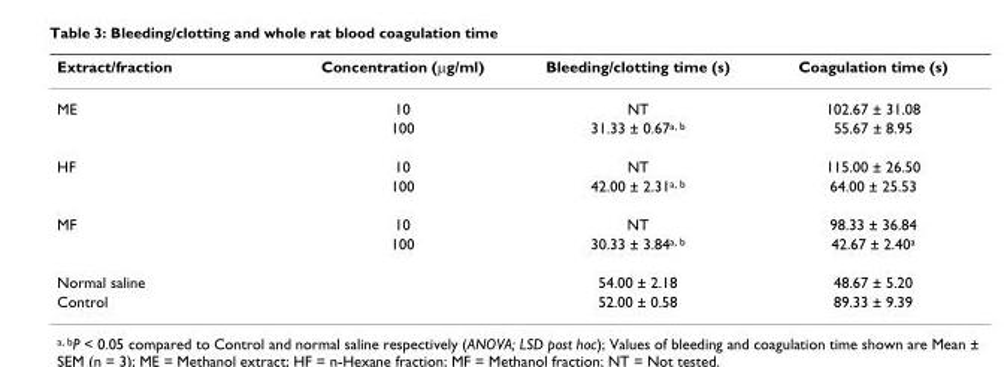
<table><thead><tr><td>Extract/fraction</td><td>Concentration (μg/ml)</td><td>Bleeding/clotting time (s)</td><td>Coagulation time (s)</td></tr></thead><tbody><tr><td rowspan="2">ME</td><td>10</td><td>NT</td><td>102.67 ± 31.08</td></tr><tr><td>100</td><td>31.33 ± 0.67<sup>a, b</sup></td><td>55.67 ± 8.95</td></tr><tr><td rowspan="2">HF</td><td>10</td><td>NT</td><td>115.00 ± 26.50</td></tr><tr><td>100</td><td>42.00 ± 2.31<sup>a, b</sup></td><td>64.00 ± 25.53</td></tr><tr><td rowspan="2">MF</td><td>10</td><td>NT</td><td>98.33 ± 36.84</td></tr><tr><td>100</td><td>30.33 ± 3.84<sup>a, b</sup></td><td>42.67 ± 2.40<sup>a</sup></td></tr><tr><td>Normal saline</td><td></td><td>54.00 ± 2.18</td><td>48.67 ± 5.20</td></tr><tr><td>Control</td><td></td><td>52.00 ± 0.58</td><td>89.33 ± 9.39</td></tr></tbody></table>